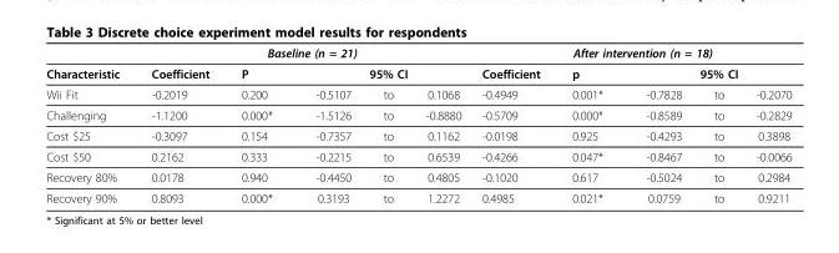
<table><thead><tr><td rowspan="3">Characteristic Wii Fit</td><td colspan="5">Baseline (n = 21)</td><td colspan="5">After intervention (n = 18)</td></tr><tr><td rowspan="2">Coefficient -0.2019</td><td rowspan="2">P 0.200</td><td colspan="3">95% CI</td><td rowspan="2">Coefficient -0.4949</td><td rowspan="2">p 0.001*</td><td colspan="3">95% CI</td></tr><tr><td>-0.5107</td><td>to</td><td>0.1068</td><td>-0.7828</td><td>to</td><td>-0.2070</td></tr></thead><tbody><tr><td>Challenging</td><td>-1.1200</td><td>0.000*</td><td>-1.5126</td><td>to</td><td>-0.8880</td><td>-0.5709</td><td>0.000*</td><td>-0.8589</td><td>to</td><td>-0.2829</td></tr><tr><td>Cost $25</td><td>-0.3097</td><td>0.154</td><td>-0.7357</td><td>to</td><td>0.1162</td><td>-0.0198</td><td>0.925</td><td>-0.4293</td><td>to</td><td>0.3898</td></tr><tr><td>Cost $50</td><td>0.2162</td><td>0.333</td><td>-0.2215</td><td>to</td><td>0.6539</td><td>-0.4266</td><td>0.047*</td><td>-0.8467</td><td>to</td><td>-0.0066</td></tr><tr><td>Recovery 80%</td><td>0.0178</td><td>0.940</td><td>-0.4450</td><td>to</td><td>0.4805</td><td>-0.1020</td><td>0.617</td><td>-0.5024</td><td>to</td><td>0.2984</td></tr><tr><td>Recovery 90%</td><td>0.8093</td><td>0.000*</td><td>0.3193</td><td>to</td><td>1.2272</td><td>0.4985</td><td>0.021*</td><td>0.0759</td><td>to</td><td>0.9211</td></tr></tbody></table>